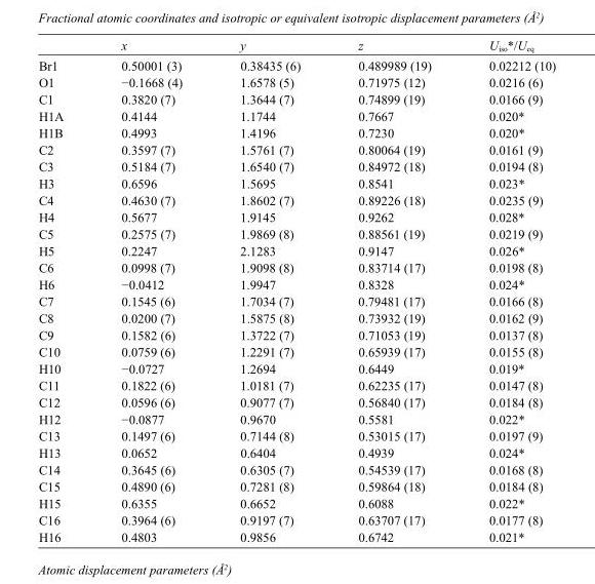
<table><thead><tr><td></td><td>x</td><td>y</td><td>z</td><td>U<sub>iso</sub>*/U<sub>eq</sub></td></tr></thead><tbody><tr><td>Br1</td><td>0.50001 (3)</td><td>0.38435 (6)</td><td>0.489989 (19)</td><td>0.02212 (10)</td></tr><tr><td>O1</td><td>−0.1668 (4)</td><td>1.6578 (5)</td><td>0.71975 (12)</td><td>0.0216 (6)</td></tr><tr><td>C1</td><td>0.3820 (7)</td><td>1.3644 (7)</td><td>0.74899 (19)</td><td>0.0166 (9)</td></tr><tr><td>H1A</td><td>0.4144</td><td>1.1744</td><td>0.7667</td><td>0.020*</td></tr><tr><td>H1B</td><td>0.4993</td><td>1.4196</td><td>0.7230</td><td>0.020*</td></tr><tr><td>C2</td><td>0.3597 (7)</td><td>1.5761 (7)</td><td>0.80064 (19)</td><td>0.0161 (9)</td></tr><tr><td>C3</td><td>0.5184 (7)</td><td>1.6540 (7)</td><td>0.84972 (18)</td><td>0.0194 (8)</td></tr><tr><td>H3</td><td>0.6596</td><td>1.5695</td><td>0.8541</td><td>0.023*</td></tr><tr><td>C4</td><td>0.4630 (7)</td><td>1.8602 (7)</td><td>0.89226 (18)</td><td>0.0235 (9)</td></tr><tr><td>H4</td><td>0.5677</td><td>1.9145</td><td>0.9262</td><td>0.028*</td></tr><tr><td>C5</td><td>0.2575 (7)</td><td>1.9869 (8)</td><td>0.88561 (19)</td><td>0.0219 (9)</td></tr><tr><td>H5</td><td>0.2247</td><td>2.1283</td><td>0.9147</td><td>0.026*</td></tr><tr><td>C6</td><td>0.0998 (7)</td><td>1.9098 (8)</td><td>0.83714 (17)</td><td>0.0198 (8)</td></tr><tr><td>H6</td><td>−0.0412</td><td>1.9947</td><td>0.8328</td><td>0.024*</td></tr><tr><td>C7</td><td>0.1545 (6)</td><td>1.7034 (7)</td><td>0.79481 (17)</td><td>0.0166 (8)</td></tr><tr><td>C8</td><td>0.0200 (7)</td><td>1.5875 (8)</td><td>0.73932 (19)</td><td>0.0162 (9)</td></tr><tr><td>C9</td><td>0.1582 (6)</td><td>1.3722 (7)</td><td>0.71053 (19)</td><td>0.0137 (8)</td></tr><tr><td>C10</td><td>0.0759 (6)</td><td>1.2291 (7)</td><td>0.65939 (17)</td><td>0.0155 (8)</td></tr><tr><td>H10</td><td>−0.0727</td><td>1.2694</td><td>0.6449</td><td>0.019*</td></tr><tr><td>C11</td><td>0.1822 (6)</td><td>1.0181 (7)</td><td>0.62235 (17)</td><td>0.0147 (8)</td></tr><tr><td>C12</td><td>0.0596 (6)</td><td>0.9077 (7)</td><td>0.56840 (17)</td><td>0.0184 (8)</td></tr><tr><td>H12</td><td>−0.0877</td><td>0.9670</td><td>0.5581</td><td>0.022*</td></tr><tr><td>C13</td><td>0.1497 (6)</td><td>0.7144 (8)</td><td>0.53015 (17)</td><td>0.0197 (9)</td></tr><tr><td>H13</td><td>0.0652</td><td>0.6404</td><td>0.4939</td><td>0.024*</td></tr><tr><td>C14</td><td>0.3645 (6)</td><td>0.6305 (7)</td><td>0.54539 (17)</td><td>0.0168 (8)</td></tr><tr><td>C15</td><td>0.4890 (6)</td><td>0.7281 (8)</td><td>0.59864 (18)</td><td>0.0184 (8)</td></tr><tr><td>H15</td><td>0.6355</td><td>0.6652</td><td>0.6088</td><td>0.022*</td></tr><tr><td>C16</td><td>0.3964 (6)</td><td>0.9197 (7)</td><td>0.63707 (17)</td><td>0.0177 (8)</td></tr><tr><td>H16</td><td>0.4803</td><td>0.9856</td><td>0.6742</td><td>0.021*</td></tr></tbody></table>